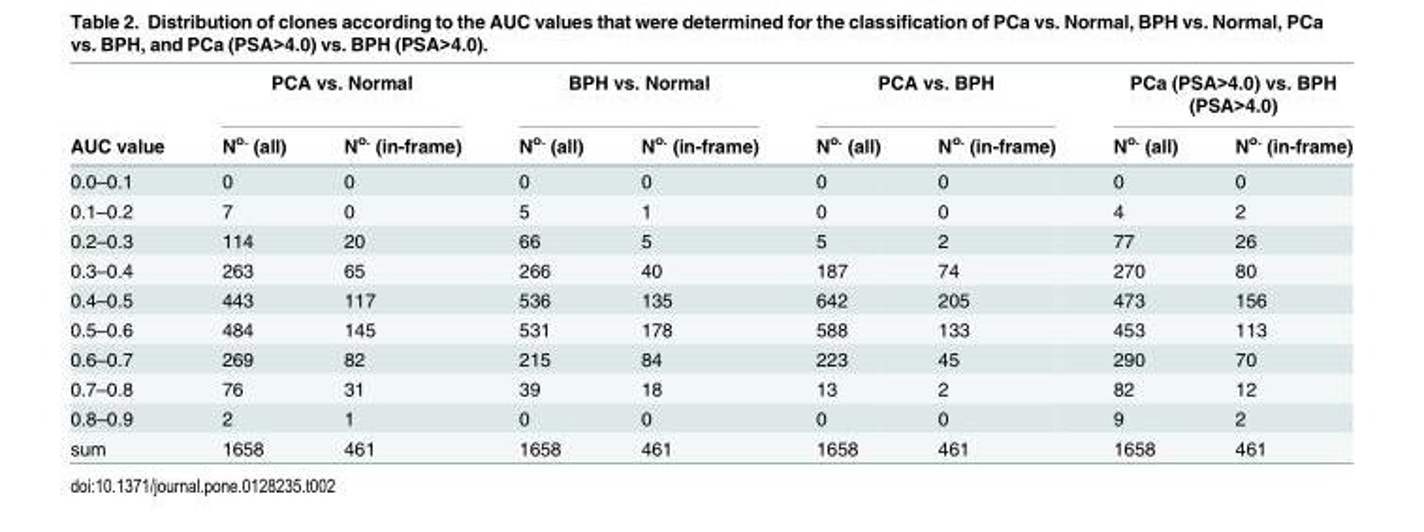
<table><thead><tr><td rowspan="2">AUC value</td><td colspan="2">PCA vs. Normal</td><td colspan="2">BPH vs. Normal</td><td colspan="2">PCA vs. BPH</td><td colspan="2">PCa (PSA&gt;4.0) vs. BPH (PSA&gt;4.0)</td></tr><tr><td>N<sup>o.</sup> (all)</td><td>N<sup>o.</sup> (in-frame)</td><td>N<sup>o.</sup> (all)</td><td>N<sup>o.</sup> (in-frame)</td><td>N<sup>o.</sup> (all)</td><td>N<sup>o.</sup> (in-frame)</td><td>N<sup>o.</sup> (all)</td><td>N<sup>o.</sup> (in-frame)</td></tr></thead><tbody><tr><td>0.0–0.1</td><td>0</td><td>0</td><td>0</td><td>0</td><td>0</td><td>0</td><td>0</td><td>0</td></tr><tr><td>0.1–0.2</td><td>7</td><td>0</td><td>5</td><td>1</td><td>0</td><td>0</td><td>4</td><td>2</td></tr><tr><td>0.2–0.3</td><td>114</td><td>20</td><td>66</td><td>5</td><td>5</td><td>2</td><td>77</td><td>26</td></tr><tr><td>0.3–0.4</td><td>263</td><td>65</td><td>266</td><td>40</td><td>187</td><td>74</td><td>270</td><td>80</td></tr><tr><td>0.4–0.5</td><td>443</td><td>117</td><td>536</td><td>135</td><td>642</td><td>205</td><td>473</td><td>156</td></tr><tr><td>0.5–0.6</td><td>484</td><td>145</td><td>531</td><td>178</td><td>588</td><td>133</td><td>453</td><td>113</td></tr><tr><td>0.6–0.7</td><td>269</td><td>82</td><td>215</td><td>84</td><td>223</td><td>45</td><td>290</td><td>70</td></tr><tr><td>0.7–0.8</td><td>76</td><td>31</td><td>39</td><td>18</td><td>13</td><td>2</td><td>82</td><td>12</td></tr><tr><td>0.8–0.9</td><td>2</td><td>1</td><td>0</td><td>0</td><td>0</td><td>0</td><td>9</td><td>2</td></tr><tr><td>sum</td><td>1658</td><td>461</td><td>1658</td><td>461</td><td>1658</td><td>461</td><td>1658</td><td>461</td></tr></tbody></table>